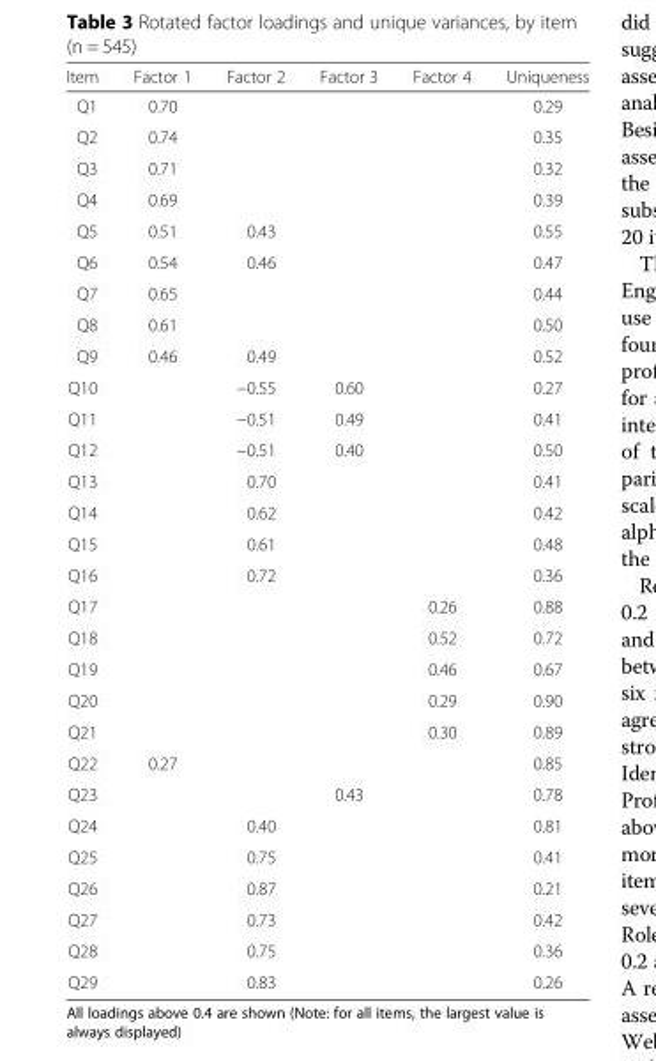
<table><thead><tr><td>Item</td><td>Factor 1</td><td>Factor 2</td><td>Factor 3</td><td>Factor 4</td><td>Uniqueness</td></tr></thead><tbody><tr><td>Q1</td><td>0.70</td><td></td><td></td><td></td><td>0.29</td></tr><tr><td>Q2</td><td>0.74</td><td></td><td></td><td></td><td>0.35</td></tr><tr><td>Q3</td><td>0.71</td><td></td><td></td><td></td><td>0.32</td></tr><tr><td>Q4</td><td>0.69</td><td></td><td></td><td></td><td>0.39</td></tr><tr><td>Q5</td><td>0.51</td><td>0.43</td><td></td><td></td><td>0.55</td></tr><tr><td>Q6</td><td>0.54</td><td>0.46</td><td></td><td></td><td>0.47</td></tr><tr><td>Q7</td><td>0.65</td><td></td><td></td><td></td><td>0.44</td></tr><tr><td>Q8</td><td>0.61</td><td></td><td></td><td></td><td>0.50</td></tr><tr><td>Q9</td><td>0.46</td><td>0.49</td><td></td><td></td><td>0.52</td></tr><tr><td>Q10</td><td></td><td>−0.55</td><td>0.60</td><td></td><td>0.27</td></tr><tr><td>Q11</td><td></td><td>−0.51</td><td>0.49</td><td></td><td>0.41</td></tr><tr><td>Q12</td><td></td><td>−0.51</td><td>0.40</td><td></td><td>0.50</td></tr><tr><td>Q13</td><td></td><td>0.70</td><td></td><td></td><td>0.41</td></tr><tr><td>Q14</td><td></td><td>0.62</td><td></td><td></td><td>0.42</td></tr><tr><td>Q15</td><td></td><td>0.61</td><td></td><td></td><td>0.48</td></tr><tr><td>Q16</td><td></td><td>0.72</td><td></td><td></td><td>0.36</td></tr><tr><td>Q17</td><td></td><td></td><td></td><td>0.26</td><td>0.88</td></tr><tr><td>Q18</td><td></td><td></td><td></td><td>0.52</td><td>0.72</td></tr><tr><td>Q19</td><td></td><td></td><td></td><td>0.46</td><td>0.67</td></tr><tr><td>Q20</td><td></td><td></td><td></td><td>0.29</td><td>0.90</td></tr><tr><td>Q21</td><td></td><td></td><td></td><td>0.30</td><td>0.89</td></tr><tr><td>Q22</td><td>0.27</td><td></td><td></td><td></td><td>0.85</td></tr><tr><td>Q23</td><td></td><td></td><td>0.43</td><td></td><td>0.78</td></tr><tr><td>Q24</td><td></td><td>0.40</td><td></td><td></td><td>0.81</td></tr><tr><td>Q25</td><td></td><td>0.75</td><td></td><td></td><td>0.41</td></tr><tr><td>Q26</td><td></td><td>0.87</td><td></td><td></td><td>0.21</td></tr><tr><td>Q27</td><td></td><td>0.73</td><td></td><td></td><td>0.42</td></tr><tr><td>Q28</td><td></td><td>0.75</td><td></td><td></td><td>0.36</td></tr><tr><td>Q29</td><td></td><td>0.83</td><td></td><td></td><td>0.26</td></tr></tbody></table>